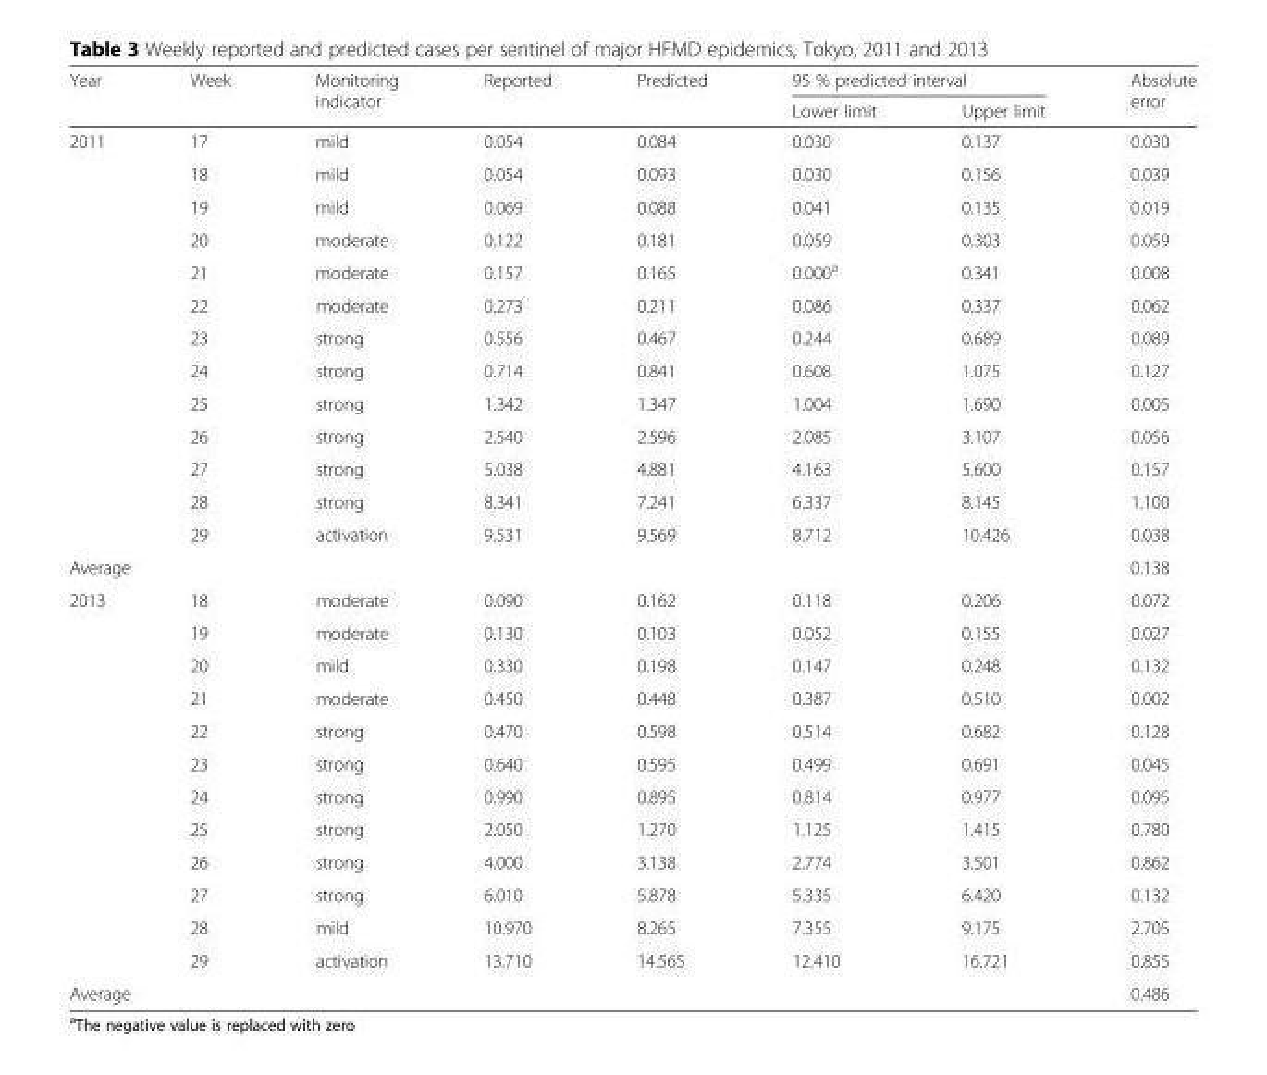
<table><thead><tr><td rowspan="2">Year</td><td rowspan="2">Week</td><td rowspan="2">Monitoring indicator</td><td rowspan="2">Reported</td><td rowspan="2">Predicted</td><td colspan="2">95 % predicted interval</td><td rowspan="2">Absolute error</td></tr><tr><td>Lower limit</td><td>Upper limit</td></tr></thead><tbody><tr><td rowspan="13">2011</td><td>17</td><td>mild</td><td>0.054</td><td>0.084</td><td>0.030</td><td>0.137</td><td>0.030</td></tr><tr><td>18</td><td>mild</td><td>0.054</td><td>0.093</td><td>0.030</td><td>0.156</td><td>0.039</td></tr><tr><td>19</td><td>mild</td><td>0.069</td><td>0.088</td><td>0.041</td><td>0.135</td><td>0.019</td></tr><tr><td>20</td><td>moderate</td><td>0.122</td><td>0.181</td><td>0.059</td><td>0.303</td><td>0.059</td></tr><tr><td>21</td><td>moderate</td><td>0.157</td><td>0.165</td><td>0.000<sup>a</sup></td><td>0.341</td><td>0.008</td></tr><tr><td>22</td><td>moderate</td><td>0.273</td><td>0.211</td><td>0.086</td><td>0.337</td><td>0.062</td></tr><tr><td>23</td><td>strong</td><td>0.556</td><td>0.467</td><td>0.244</td><td>0.689</td><td>0.089</td></tr><tr><td>24</td><td>strong</td><td>0.714</td><td>0.841</td><td>0.608</td><td>1.075</td><td>0.127</td></tr><tr><td>25</td><td>strong</td><td>1.342</td><td>1.347</td><td>1.004</td><td>1.690</td><td>0.005</td></tr><tr><td>26</td><td>strong</td><td>2.540</td><td>2.596</td><td>2.085</td><td>3.107</td><td>0.056</td></tr><tr><td>27</td><td>strong</td><td>5.038</td><td>4.881</td><td>4.163</td><td>5.600</td><td>0.157</td></tr><tr><td>28</td><td>strong</td><td>8.341</td><td>7.241</td><td>6.337</td><td>8.145</td><td>1.100</td></tr><tr><td>29</td><td>activation</td><td>9.531</td><td>9.569</td><td>8.712</td><td>10.426</td><td>0.038</td></tr><tr><td colspan="2">Average</td><td></td><td></td><td></td><td></td><td></td><td>0.138</td></tr><tr><td rowspan="12">2013</td><td>18</td><td>moderate</td><td>0.090</td><td>0.162</td><td>0.118</td><td>0.206</td><td>0.072</td></tr><tr><td>19</td><td>moderate</td><td>0.130</td><td>0.103</td><td>0.052</td><td>0.155</td><td>0.027</td></tr><tr><td>20</td><td>mild</td><td>0.330</td><td>0.198</td><td>0.147</td><td>0.248</td><td>0.132</td></tr><tr><td>21</td><td>moderate</td><td>0.450</td><td>0.448</td><td>0.387</td><td>0.510</td><td>0.002</td></tr><tr><td>22</td><td>strong</td><td>0.470</td><td>0.598</td><td>0.514</td><td>0.682</td><td>0.128</td></tr><tr><td>23</td><td>strong</td><td>0.640</td><td>0.595</td><td>0.499</td><td>0.691</td><td>0.045</td></tr><tr><td>24</td><td>strong</td><td>0.990</td><td>0.895</td><td>0.814</td><td>0.977</td><td>0.095</td></tr><tr><td>25</td><td>strong</td><td>2.050</td><td>1.270</td><td>1.125</td><td>1.415</td><td>0.780</td></tr><tr><td>26</td><td>strong</td><td>4.000</td><td>3.138</td><td>2.774</td><td>3.501</td><td>0.862</td></tr><tr><td>27</td><td>strong</td><td>6.010</td><td>5.878</td><td>5.335</td><td>6.420</td><td>0.132</td></tr><tr><td>28</td><td>mild</td><td>10.970</td><td>8.265</td><td>7.355</td><td>9.175</td><td>2.705</td></tr><tr><td>29</td><td>activation</td><td>13.710</td><td>14.565</td><td>12.410</td><td>16.721</td><td>0.855</td></tr><tr><td colspan="2">Average</td><td></td><td></td><td></td><td></td><td></td><td>0.486</td></tr></tbody></table>